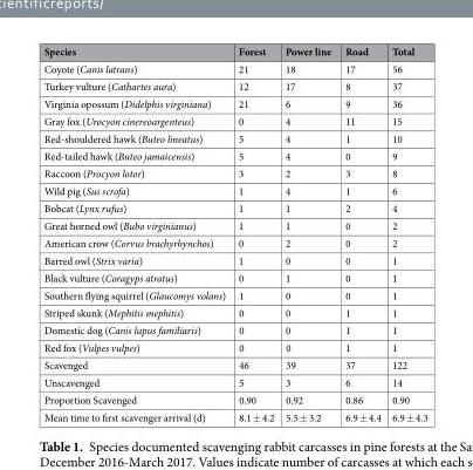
<table><thead><tr><td>Species</td><td>Forest</td><td>Power line</td><td>Road</td><td>Total</td></tr></thead><tbody><tr><td>Coyote (Canis latrans)</td><td>21</td><td>18</td><td>17</td><td>56</td></tr><tr><td>Turkey vulture (Cathartes aura)</td><td>12</td><td>17</td><td>8</td><td>37</td></tr><tr><td>Virginia opossum (Didelphis virginiana)</td><td>21</td><td>6</td><td>9</td><td>36</td></tr><tr><td>Gray fox (Urocyon cinereoargenteus)</td><td>0</td><td>4</td><td>11</td><td>15</td></tr><tr><td>Red-shouldered hawk (Buteo lineatus)</td><td>5</td><td>4</td><td>1</td><td>10</td></tr><tr><td>Red-tailed hawk (Buteo jamaicensis)</td><td>5</td><td>4</td><td>0</td><td>9</td></tr><tr><td>Raccoon (Procyon lotor)</td><td>3</td><td>2</td><td>3</td><td>8</td></tr><tr><td>Wild pig (Sus scrofa)</td><td>1</td><td>4</td><td>1</td><td>6</td></tr><tr><td>Bobcat (Lynx rufus)</td><td>1</td><td>1</td><td>2</td><td>4</td></tr><tr><td>Great horned owl (Bubo virginianus)</td><td>1</td><td>1</td><td>0</td><td>2</td></tr><tr><td>American crow (Corvus brachyrhynchos)</td><td>0</td><td>2</td><td>0</td><td>2</td></tr><tr><td>Barred owl (Strix varia)</td><td>1</td><td>0</td><td>0</td><td>1</td></tr><tr><td>Black vulture (Coragyps atratus)</td><td>0</td><td>1</td><td>0</td><td>1</td></tr><tr><td>Southern flying squirrel (Glaucomys volans)</td><td>1</td><td>0</td><td>0</td><td>1</td></tr><tr><td>Striped skunk (Mephitis mephitis)</td><td>0</td><td>0</td><td>1</td><td>1</td></tr><tr><td>Domestic dog (Canis lupus familiaris)</td><td>0</td><td>0</td><td>1</td><td>1</td></tr><tr><td>Red fox (Vulpes vulpes)</td><td>0</td><td>0</td><td>1</td><td>1</td></tr><tr><td>Scavenged</td><td>46</td><td>39</td><td>37</td><td>122</td></tr><tr><td>Unscavenged</td><td>5</td><td>3</td><td>6</td><td>14</td></tr><tr><td>Proportion Scavenged</td><td>0.90</td><td>0.92</td><td>0.86</td><td>0.90</td></tr><tr><td>Mean time to first scavenger arrival (d)</td><td>8.1 ± 4.2</td><td>5.5 ± 3.2</td><td>6.9 ± 4.4</td><td>6.9 ± 4.3</td></tr></tbody></table>